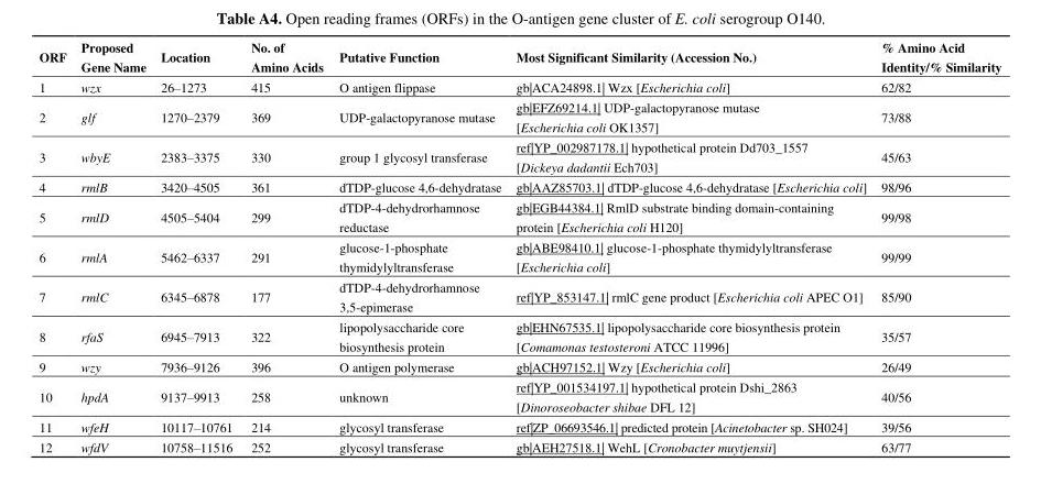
<table><thead><tr><td>ORF</td><td>Proposed Gene Name</td><td>Location</td><td>No. of Amino Acids</td><td>Putative Function</td><td>Most Significant Similarity (Accession No.)</td><td>% Amino Acid Identity/% Similarity</td></tr></thead><tbody><tr><td>1</td><td>wzx</td><td>26–1273</td><td>415</td><td>O antigen flippase</td><td>gb|ACA24898.1| Wzx [Escherichia coli]</td><td>62/82</td></tr><tr><td>2</td><td>glf</td><td>1270–2379</td><td>369</td><td>UDP-galactopyranose mutase</td><td>gb|EFZ69214.1| UDP-galactopyranose mutase [Escherichia coli OK1357]</td><td>73/88</td></tr><tr><td>3</td><td>wbyE</td><td>2383–3375</td><td>330</td><td>group 1 glycosyl transferase</td><td>ref|YP_002987178.1| hypothetical protein Dd703_1557 [Dickeya dadantii Ech703]</td><td>45/63</td></tr><tr><td>4</td><td>rmlB</td><td>3420–4505</td><td>361</td><td>dTDP-glucose 4,6-dehydratase</td><td>gb|AAZ85703.1| dTDP-glucose 4,6-dehydratase [Escherichia coli]</td><td>98/96</td></tr><tr><td>5</td><td>rmlD</td><td>4505–5404</td><td>299</td><td>dTDP-4-dehydrorhamnose reductase</td><td>gb|EGB44384.1| RmlD substrate binding domain-containing protein [Escherichia coli H120]</td><td>99/98</td></tr><tr><td>6</td><td>rmlA</td><td>5462–6337</td><td>291</td><td>glucose-1-phosphate thymidylyltransferase</td><td>gb|ABE98410.1| glucose-1-phosphate thymidylyltransferase [Escherichia coli]</td><td>99/99</td></tr><tr><td>7</td><td>rmlC</td><td>6345–6878</td><td>177</td><td>dTDP-4-dehydrorhamnose 3,5-epimerase</td><td>ref|YP_853147.1| rmlC gene product [Escherichia coli APEC O1]</td><td>85/90</td></tr><tr><td>8</td><td>rfaS</td><td>6945–7913</td><td>322</td><td>lipopolysaccharide core biosynthesis protein</td><td>gb|EHN67535.1| lipopolysaccharide core biosynthesis protein [Comamonas testosteroni ATCC 11996]</td><td>35/57</td></tr><tr><td>9</td><td>wzy</td><td>7936–9126</td><td>396</td><td>O antigen polymerase</td><td>gb|ACH97152.1| Wzy [Escherichia coli]</td><td>26/49</td></tr><tr><td>10</td><td>hpdA</td><td>9137–9913</td><td>258</td><td>unknown</td><td>ref|YP_001534197.1| hypothetical protein Dshi_2863 [Dinoroseobacter shibae DFL 12]</td><td>40/56</td></tr><tr><td>11</td><td>wfeH</td><td>10117–10761</td><td>214</td><td>glycosyl transferase</td><td>ref|ZP_06693546.1| predicted protein [Acinetobacter sp. SH024]</td><td>39/56</td></tr><tr><td>12</td><td>wfdV</td><td>10758–11516</td><td>252</td><td>glycosyl transferase</td><td>gb|AEH27518.1| WehL [Cronobacter muytjensii]</td><td>63/77</td></tr></tbody></table>